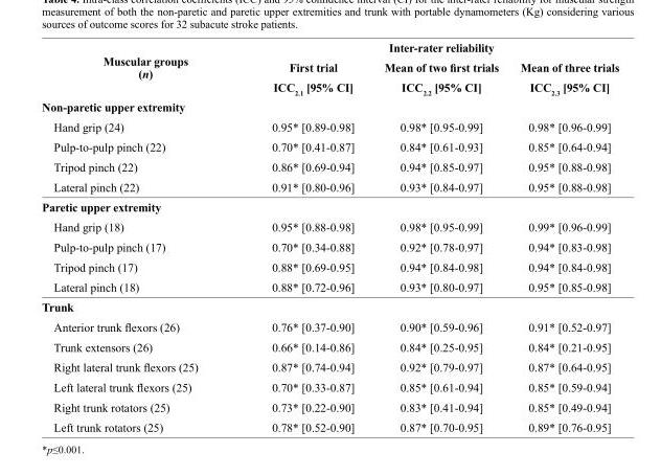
<table><thead><tr><td rowspan="3">Muscular groups (n)</td><td colspan="3">Inter-rater reliability</td></tr><tr><td rowspan="2">First trial ICC<sub>2.1</sub> [95% CI]</td><td rowspan="2">Mean of two first trials ICC<sub>2.2</sub> [95% CI]</td><td rowspan="2">Mean of three trials ICC<sub>2.3</sub> [95% CI]</td></tr><tr></tr></thead><tbody><tr><td colspan="4">Non-paretic upper extremity</td></tr><tr><td>Hand grip (24)</td><td>0.95* [0.89-0.98]</td><td>0.98* [0.95-0.99]</td><td>0.98* [0.96-0.99]</td></tr><tr><td>Pulp-to-pulp pinch (22)</td><td>0.70* [0.41-0.87]</td><td>0.84* [0.61-0.93]</td><td>0.85* [0.64-0.94]</td></tr><tr><td>Tripod pinch (22)</td><td>0.86* [0.69-0.94]</td><td>0.94* [0.85-0.97]</td><td>0.95* [0.88-0.98]</td></tr><tr><td>Lateral pinch (22)</td><td>0.91* [0.80-0.96]</td><td>0.93* [0.84-0.97]</td><td>0.95* [0.88-0.98]</td></tr><tr><td colspan="4">Paretic upper extremity</td></tr><tr><td>Hand grip (18)</td><td>0.95* [0.88-0.98]</td><td>0.98* [0.95-0.99]</td><td>0.99* [0.96-0.99]</td></tr><tr><td>Pulp-to-pulp pinch (17)</td><td>0.70* [0.34-0.88]</td><td>0.92* [0.78-0.97]</td><td>0.94* [0.83-0.98]</td></tr><tr><td>Tripod pinch (17)</td><td>0.88* [0.69-0.95]</td><td>0.94* [0.84-0.98]</td><td>0.94* [0.84-0.98]</td></tr><tr><td>Lateral pinch (18)</td><td>0.88* [0.72-0.96]</td><td>0.93* [0.80-0.97]</td><td>0.95* [0.85-0.98]</td></tr><tr><td colspan="4">Trunk</td></tr><tr><td>Anterior trunk flexors (26)</td><td>0.76* [0.37-0.90]</td><td>0.90* [0.59-0.96]</td><td>0.91* [0.52-0.97]</td></tr><tr><td>Trunk extensors (26)</td><td>0.66* [0.14-0.86]</td><td>0.84* [0.25-0.95]</td><td>0.84* [0.21-0.95]</td></tr><tr><td>Right lateral trunk flexors (25)</td><td>0.87* [0.74-0.94]</td><td>0.92* [0.79-0.97]</td><td>0.87* [0.64-0.95]</td></tr><tr><td>Left lateral trunk flexors (25)</td><td>0.70* [0.33-0.87]</td><td>0.85* [0.61-0.94]</td><td>0.85* [0.59-0.94]</td></tr><tr><td>Right trunk rotators (25)</td><td>0.73* [0.22-0.90]</td><td>0.83* [0.41-0.94]</td><td>0.85* [0.49-0.94]</td></tr><tr><td>Left trunk rotators (25)</td><td>0.78* [0.52-0.90]</td><td>0.87* [0.70-0.95]</td><td>0.89* [0.76-0.95]</td></tr></tbody></table>